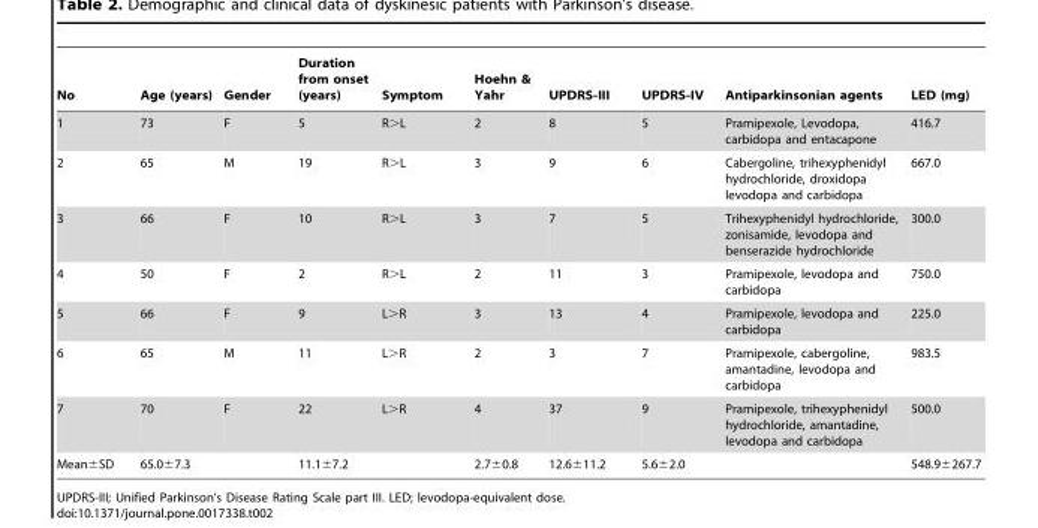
<table><thead><tr><td>No</td><td>Age (years)</td><td>Gender</td><td>Duration from onset (years)</td><td>Symptom</td><td>Hoehn &amp; Yahr</td><td>UPDRS-III</td><td>UPDRS-IV</td><td>Antiparkinsonian agents</td><td>LED (mg)</td></tr></thead><tbody><tr><td>1</td><td>73</td><td>F</td><td>5</td><td>R&gt;L</td><td>2</td><td>8</td><td>5</td><td>Pramipexole, Levodopa, carbidopa and entacapone</td><td>416.7</td></tr><tr><td>2</td><td>65</td><td>M</td><td>19</td><td>R&gt;L</td><td>3</td><td>9</td><td>6</td><td>Cabergoline, trihexyphenidyl hydrochloride, droxidopa levodopa and carbidopa</td><td>667.0</td></tr><tr><td>3</td><td>66</td><td>F</td><td>10</td><td>R&gt;L</td><td>3</td><td>7</td><td>5</td><td>Trihexyphenidyl hydrochloride, zonisamide, levodopa and benserazide hydrochloride</td><td>300.0</td></tr><tr><td>4</td><td>50</td><td>F</td><td>2</td><td>R&gt;L</td><td>2</td><td>11</td><td>3</td><td>Pramipexole, levodopa and carbidopa</td><td>750.0</td></tr><tr><td>5</td><td>66</td><td>F</td><td>9</td><td>L&gt;R</td><td>3</td><td>13</td><td>4</td><td>Pramipexole, levodopa and carbidopa</td><td>225.0</td></tr><tr><td>6</td><td>65</td><td>M</td><td>11</td><td>L&gt;R</td><td>2</td><td>3</td><td>7</td><td>Pramipexole, cabergoline, amantadine, levodopa and carbidopa</td><td>983.5</td></tr><tr><td>7</td><td>70</td><td>F</td><td>22</td><td>L&gt;R</td><td>4</td><td>37</td><td>9</td><td>Pramipexole, trihexyphenidyl hydrochloride, amantadine, levodopa and carbidopa</td><td>500.0</td></tr><tr><td>Mean±SD</td><td>65.0±7.3</td><td></td><td>11.1±7.2</td><td></td><td>2.7±0.8</td><td>12.6±11.2</td><td>5.6±2.0</td><td></td><td>548.9±267.7</td></tr></tbody></table>